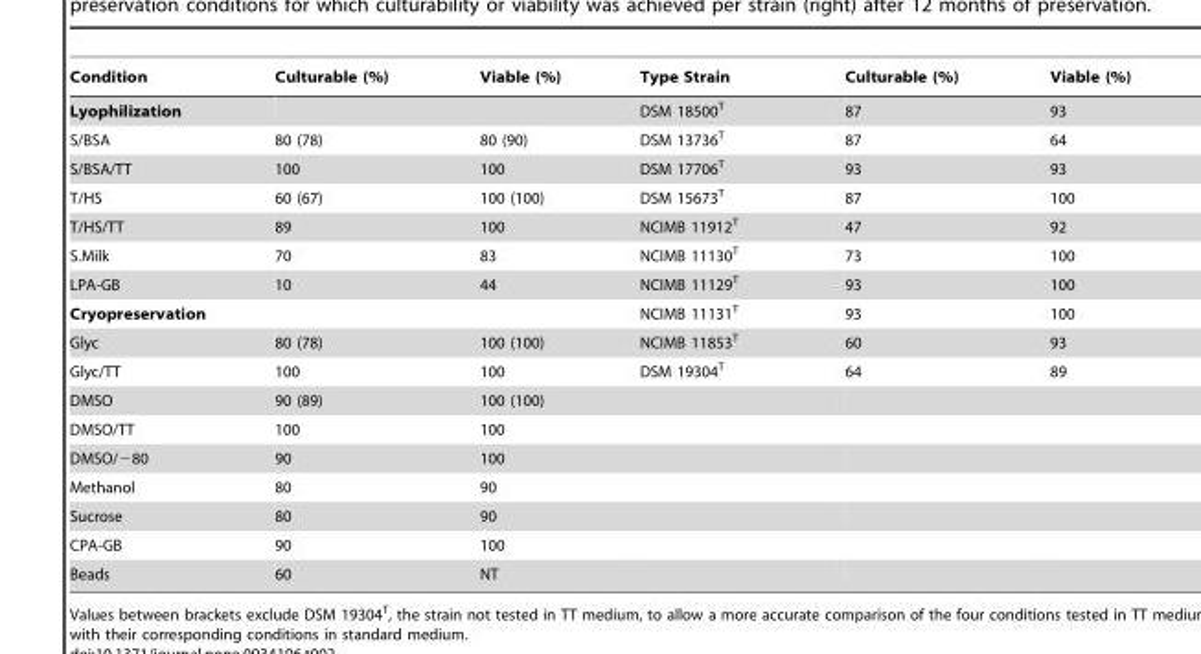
<table><thead><tr><td>Condition</td><td>Culturable (%)</td><td>Viable (%)</td><td>Type Strain</td><td>Culturable (%)</td><td>Viable (%)</td></tr></thead><tbody><tr><td>Lyophilization</td><td></td><td></td><td>DSM 18500<sup>T</sup></td><td>87</td><td>93</td></tr><tr><td>S/BSA</td><td>80 (78)</td><td>80 (90)</td><td>DSM 13736<sup>T</sup></td><td>87</td><td>64</td></tr><tr><td>S/BSA/TT</td><td>100</td><td>100</td><td>DSM 17706<sup>T</sup></td><td>93</td><td>93</td></tr><tr><td>T/HS</td><td>60 (67)</td><td>100 (100)</td><td>DSM 15673<sup>T</sup></td><td>87</td><td>100</td></tr><tr><td>T/HS/TT</td><td>89</td><td>100</td><td>NCIMB 11912<sup>T</sup></td><td>47</td><td>92</td></tr><tr><td>S.Milk</td><td>70</td><td>83</td><td>NCIMB 11130<sup>T</sup></td><td>73</td><td>100</td></tr><tr><td>LPA-GB</td><td>10</td><td>44</td><td>NCIMB 11129<sup>T</sup></td><td>93</td><td>100</td></tr><tr><td>Cryopreservation</td><td></td><td></td><td>NCIMB 11131<sup>T</sup></td><td>93</td><td>100</td></tr><tr><td>Glyc</td><td>80 (78)</td><td>100 (100)</td><td>NCIMB 11853<sup>T</sup></td><td>60</td><td>93</td></tr><tr><td>Glyc/TT</td><td>100</td><td>100</td><td>DSM 19304<sup>T</sup></td><td>64</td><td>89</td></tr><tr><td>DMSO</td><td>90 (89)</td><td>100 (100)</td><td></td><td></td><td></td></tr><tr><td>DMSO/TT</td><td>100</td><td>100</td><td></td><td></td><td></td></tr><tr><td>DMSO/−80</td><td>90</td><td>100</td><td></td><td></td><td></td></tr><tr><td>Methanol</td><td>80</td><td>90</td><td></td><td></td><td></td></tr><tr><td>Sucrose</td><td>80</td><td>90</td><td></td><td></td><td></td></tr><tr><td>CPA-GB</td><td>90</td><td>100</td><td></td><td></td><td></td></tr><tr><td>Beads</td><td>60</td><td>NT</td><td></td><td></td><td></td></tr></tbody></table>